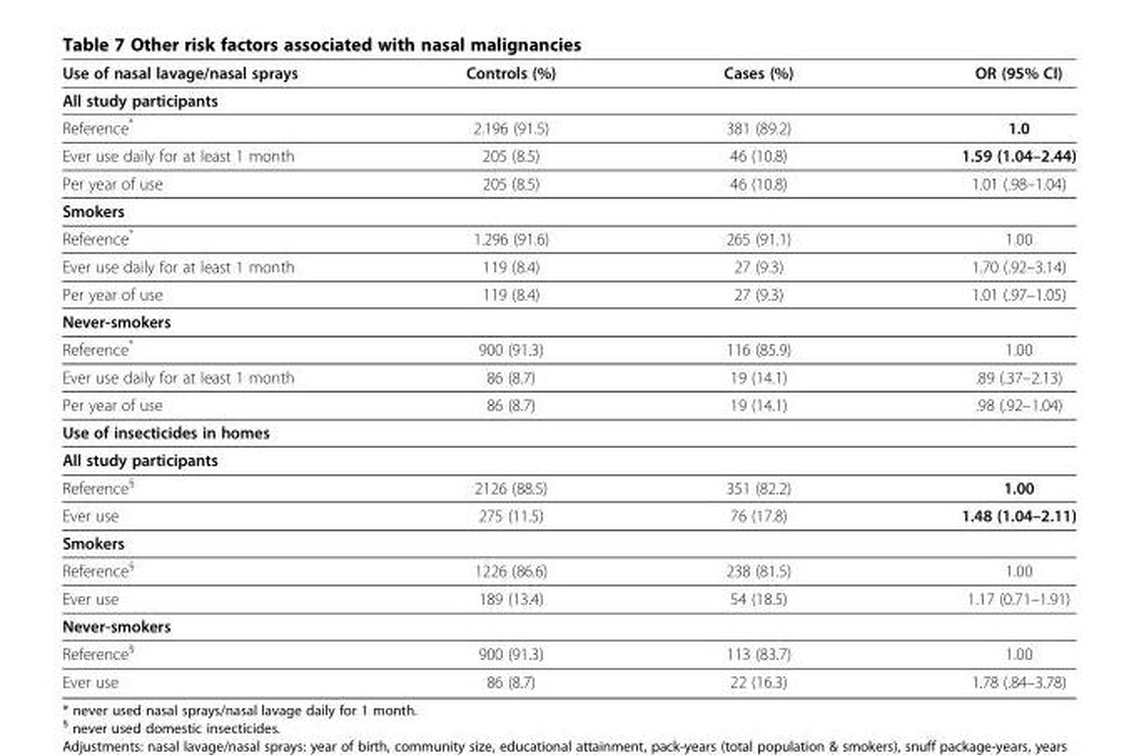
<table><thead><tr><td>Use of nasal lavage/nasal sprays</td><td>Controls (%)</td><td>Cases (%)</td><td>OR (95% CI)</td></tr></thead><tbody><tr><td colspan="4">All study participants</td></tr><tr><td>Reference*</td><td>2.196 (91.5)</td><td>381 (89.2)</td><td>1.0</td></tr><tr><td>Ever use daily for at least 1 month</td><td>205 (8.5)</td><td>46 (10.8)</td><td>1.59 (1.04–2.44)</td></tr><tr><td>Per year of use</td><td>205 (8.5)</td><td>46 (10.8)</td><td>1.01 (.98–1.04)</td></tr><tr><td colspan="4">Smokers</td></tr><tr><td>Reference*</td><td>1.296 (91.6)</td><td>265 (91.1)</td><td>1.00</td></tr><tr><td>Ever use daily for at least 1 month</td><td>119 (8.4)</td><td>27 (9.3)</td><td>1.70 (.92–3.14)</td></tr><tr><td>Per year of use</td><td>119 (8.4)</td><td>27 (9.3)</td><td>1.01 (.97–1.05)</td></tr><tr><td colspan="4">Never-smokers</td></tr><tr><td>Reference*</td><td>900 (91.3)</td><td>116 (85.9)</td><td>1.00</td></tr><tr><td>Ever use daily for at least 1 month</td><td>86 (8.7)</td><td>19 (14.1)</td><td>.89 (.37–2.13)</td></tr><tr><td>Per year of use</td><td>86 (8.7)</td><td>19 (14.1)</td><td>.98 (.92–1.04)</td></tr><tr><td colspan="4">Use of insecticides in homes</td></tr><tr><td colspan="4">All study participants</td></tr><tr><td>Reference<sup>§</sup></td><td>2126 (88.5)</td><td>351 (82.2)</td><td>1.00</td></tr><tr><td>Ever use</td><td>275 (11.5)</td><td>76 (17.8)</td><td>1.48 (1.04–2.11)</td></tr><tr><td colspan="4">Smokers</td></tr><tr><td>Reference<sup>§</sup></td><td>1226 (86.6)</td><td>238 (81.5)</td><td>1.00</td></tr><tr><td>Ever use</td><td>189 (13.4)</td><td>54 (18.5)</td><td>1.17 (0.71–1.91)</td></tr><tr><td colspan="4">Never-smokers</td></tr><tr><td>Reference<sup>§</sup></td><td>900 (91.3)</td><td>113 (83.7)</td><td>1.00</td></tr><tr><td>Ever use</td><td>86 (8.7)</td><td>22 (16.3)</td><td>1.78 (.84–3.78)</td></tr></tbody></table>